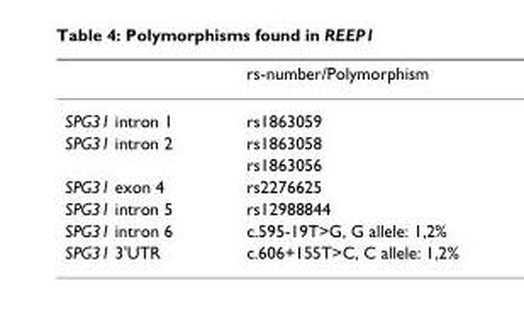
<table><thead><tr><td></td><td>rs-number/Polymorphism</td></tr></thead><tbody><tr><td>SPG31 intron 1</td><td>rs1863059</td></tr><tr><td rowspan="2">SPG31 intron 2</td><td>rs1863058</td></tr><tr><td>rs1863056</td></tr><tr><td>SPG31 exon 4</td><td>rs2276625</td></tr><tr><td>SPG31 intron 5</td><td>rs12988844</td></tr><tr><td>SPG31 intron 6</td><td>c.595-19T&gt;G, G allele: 1,2%</td></tr><tr><td>SPG31 3&#x27;UTR</td><td>c.606+155T&gt;C, C allele: 1,2%</td></tr></tbody></table>